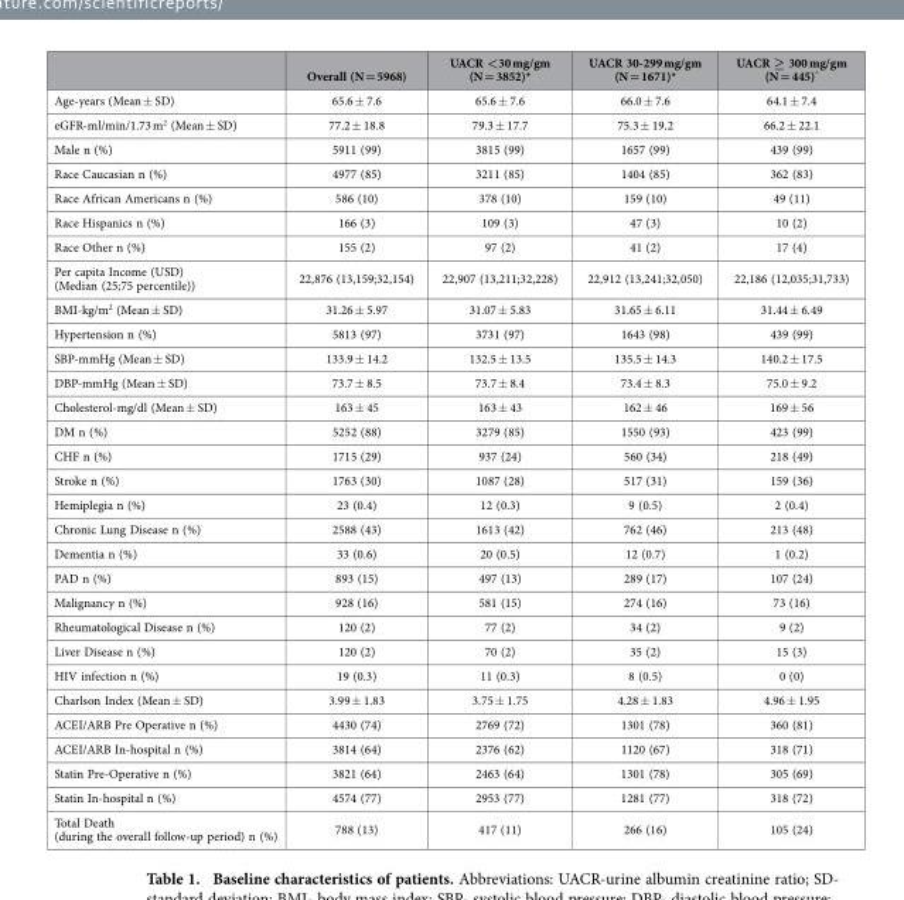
<table><thead><tr><td></td><td>Overall (N = 5968)</td><td>UACR &lt;30 mg/gm (N = 3852)*</td><td>UACR 30-299 mg/gm (N = 1671)*</td><td>UACR ≥ 300 mg/gm (N = 445)*</td></tr></thead><tbody><tr><td>Age-years (Mean ± SD)</td><td>65.6 ± 7.6</td><td>65.6 ± 7.6</td><td>66.0 ± 7.6</td><td>64.1 ± 7.4</td></tr><tr><td>eGFR-ml/min/1.73 m<sup>2</sup> (Mean ± SD)</td><td>77.2 ± 18.8</td><td>79.3 ± 17.7</td><td>75.3 ± 19.2</td><td>66.2 ± 22.1</td></tr><tr><td>Male n (%)</td><td>5911 (99)</td><td>3815 (99)</td><td>1657 (99)</td><td>439 (99)</td></tr><tr><td>Race Caucasian n (%)</td><td>4977 (85)</td><td>3211 (85)</td><td>1404 (85)</td><td>362 (83)</td></tr><tr><td>Race African Americans n (%)</td><td>586 (10)</td><td>378 (10)</td><td>159 (10)</td><td>49 (11)</td></tr><tr><td>Race Hispanics n (%)</td><td>166 (3)</td><td>109 (3)</td><td>47 (3)</td><td>10 (2)</td></tr><tr><td>Race Other n (%)</td><td>155 (2)</td><td>97 (2)</td><td>41 (2)</td><td>17 (4)</td></tr><tr><td>Per capita Income (USD) (Median (25;75 percentile))</td><td>22,876 (13,159;32,154)</td><td>22,907 (13,211;32,228)</td><td>22,912 (13,241;32,050)</td><td>22,186 (12,035;31,733)</td></tr><tr><td>BMI-kg/m<sup>2</sup> (Mean ± SD)</td><td>31.26 ± 5.97</td><td>31.07 ± 5.83</td><td>31.65 ± 6.11</td><td>31.44 ± 6.49</td></tr><tr><td>Hypertension n (%)</td><td>5813 (97)</td><td>3731 (97)</td><td>1643 (98)</td><td>439 (99)</td></tr><tr><td>SBP-mmHg (Mean ± SD)</td><td>133.9 ± 14.2</td><td>132.5 ± 13.5</td><td>135.5 ± 14.3</td><td>140.2 ± 17.5</td></tr><tr><td>DBP-mmHg (Mean ± SD)</td><td>73.7 ± 8.5</td><td>73.7 ± 8.4</td><td>73.4 ± 8.3</td><td>75.0 ± 9.2</td></tr><tr><td>Cholesterol-mg/dl (Mean ± SD)</td><td>163 ± 45</td><td>163 ± 43</td><td>162 ± 46</td><td>169 ± 56</td></tr><tr><td>DM n (%)</td><td>5252 (88)</td><td>3279 (85)</td><td>1550 (93)</td><td>423 (99)</td></tr><tr><td>CHF n (%)</td><td>1715 (29)</td><td>937 (24)</td><td>560 (34)</td><td>218 (49)</td></tr><tr><td>Stroke n (%)</td><td>1763 (30)</td><td>1087 (28)</td><td>517 (31)</td><td>159 (36)</td></tr><tr><td>Hemiplegia n (%)</td><td>23 (0.4)</td><td>12 (0.3)</td><td>9 (0.5)</td><td>2 (0.4)</td></tr><tr><td>Chronic Lung Disease n (%)</td><td>2588 (43)</td><td>1613 (42)</td><td>762 (46)</td><td>213 (48)</td></tr><tr><td>Dementia n (%)</td><td>33 (0.6)</td><td>20 (0.5)</td><td>12 (0.7)</td><td>1 (0.2)</td></tr><tr><td>PAD n (%)</td><td>893 (15)</td><td>497 (13)</td><td>289 (17)</td><td>107 (24)</td></tr><tr><td>Malignancy n (%)</td><td>928 (16)</td><td>581 (15)</td><td>274 (16)</td><td>73 (16)</td></tr><tr><td>Rheumatological Disease n (%)</td><td>120 (2)</td><td>77 (2)</td><td>34 (2)</td><td>9 (2)</td></tr><tr><td>Liver Disease n (%)</td><td>120 (2)</td><td>70 (2)</td><td>35 (2)</td><td>15 (3)</td></tr><tr><td>HIV infection n (%)</td><td>19 (0.3)</td><td>11 (0.3)</td><td>8 (0.5)</td><td>0 (0)</td></tr><tr><td>Charlson Index (Mean ± SD)</td><td>3.99 ± 1.83</td><td>3.75 ± 1.75</td><td>4.28 ± 1.83</td><td>4.96 ± 1.95</td></tr><tr><td>ACEI/ARB Pre Operative n (%)</td><td>4430 (74)</td><td>2769 (72)</td><td>1301 (78)</td><td>360 (81)</td></tr><tr><td>ACEI/ARB In-hospital n (%)</td><td>3814 (64)</td><td>2376 (62)</td><td>1120 (67)</td><td>318 (71)</td></tr><tr><td>Statin Pre-Operative n (%)</td><td>3821 (64)</td><td>2463 (64)</td><td>1301 (78)</td><td>305 (69)</td></tr><tr><td>Statin In-hospital n (%)</td><td>4574 (77)</td><td>2953 (77)</td><td>1281 (77)</td><td>318 (72)</td></tr><tr><td>Total Death (during the overall follow-up period) n (%)</td><td>788 (13)</td><td>417 (11)</td><td>266 (16)</td><td>105 (24)</td></tr></tbody></table>